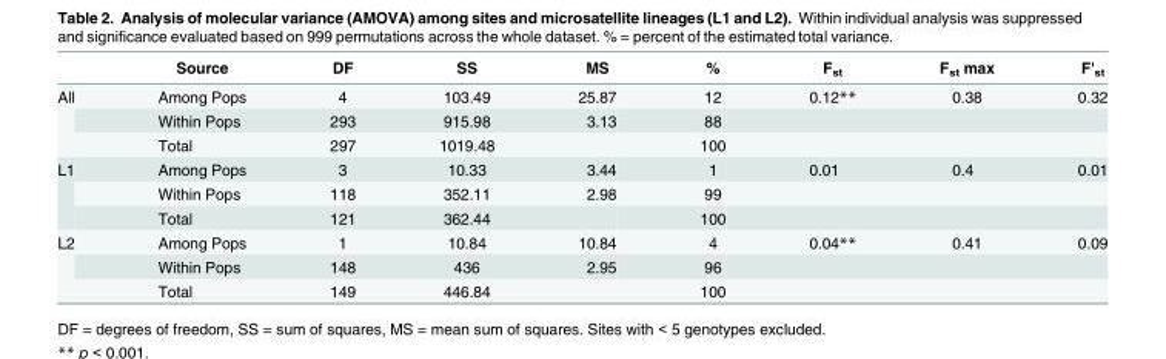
<table><thead><tr><td></td><td>Source</td><td>DF</td><td>SS</td><td>MS</td><td>%</td><td>F<sub>st</sub></td><td>F<sub>st</sub> max</td><td>F&#x27;<sub>st</sub></td></tr></thead><tbody><tr><td rowspan="3">All</td><td>Among Pops</td><td>4</td><td>103.49</td><td>25.87</td><td>12</td><td>0.12**</td><td>0.38</td><td>0.32</td></tr><tr><td>Within Pops</td><td>293</td><td>915.98</td><td>3.13</td><td>88</td><td></td><td></td><td></td></tr><tr><td>Total</td><td>297</td><td>1019.48</td><td></td><td>100</td><td></td><td></td><td></td></tr><tr><td rowspan="3">L1</td><td>Among Pops</td><td>3</td><td>10.33</td><td>3.44</td><td>1</td><td>0.01</td><td>0.4</td><td>0.01</td></tr><tr><td>Within Pops</td><td>118</td><td>352.11</td><td>2.98</td><td>99</td><td></td><td></td><td></td></tr><tr><td>Total</td><td>121</td><td>362.44</td><td></td><td>100</td><td></td><td></td><td></td></tr><tr><td rowspan="3">L2</td><td>Among Pops</td><td>1</td><td>10.84</td><td>10.84</td><td>4</td><td>0.04**</td><td>0.41</td><td>0.09</td></tr><tr><td>Within Pops</td><td>148</td><td>436</td><td>2.95</td><td>96</td><td></td><td></td><td></td></tr><tr><td>Total</td><td>149</td><td>446.84</td><td></td><td>100</td><td></td><td></td><td></td></tr></tbody></table>